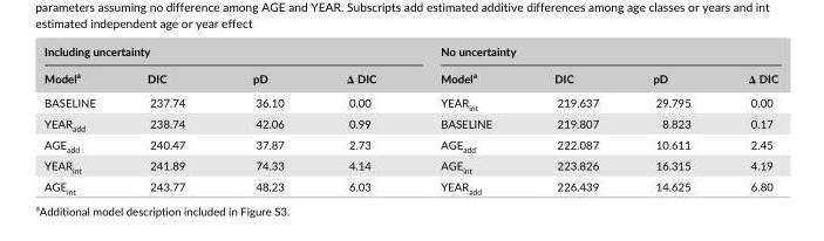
<table><thead><tr><td colspan="4">Including uncertainty</td><td colspan="4">No uncertainty</td></tr><tr><td>Model<sup>a</sup></td><td>DIC</td><td>pD</td><td>Δ DIC</td><td>Model<sup>a</sup></td><td>DIC</td><td>pD</td><td>Δ DIC</td></tr></thead><tbody><tr><td>BASELINE</td><td>237.74</td><td>36.10</td><td>0.00</td><td>YEAR<sub>int</sub></td><td>219.637</td><td>29.795</td><td>0.00</td></tr><tr><td>YEAR<sub>add</sub></td><td>238.74</td><td>42.06</td><td>0.99</td><td>BASELINE</td><td>219.807</td><td>8.823</td><td>0.17</td></tr><tr><td>AGE<sub>add</sub></td><td>240.47</td><td>37.87</td><td>2.73</td><td>AGE<sub>add</sub></td><td>222.087</td><td>10.611</td><td>2.45</td></tr><tr><td>YEAR<sub>int</sub></td><td>241.89</td><td>74.33</td><td>4.14</td><td>AGE<sub>int</sub></td><td>223.826</td><td>16.315</td><td>4.19</td></tr><tr><td>AGE<sub>int</sub></td><td>243.77</td><td>48.23</td><td>6.03</td><td>YEAR<sub>add</sub></td><td>226.439</td><td>14.625</td><td>6.80</td></tr></tbody></table>